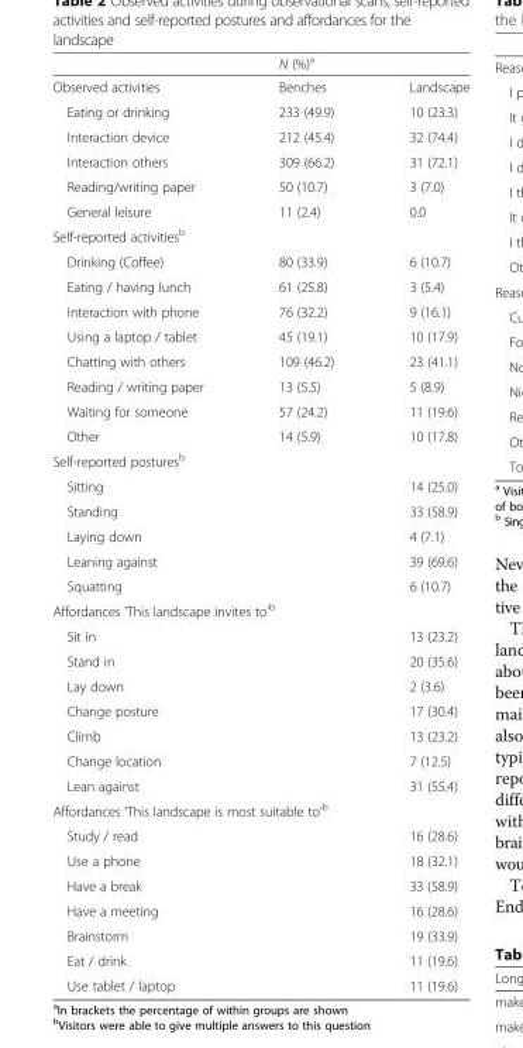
<table><thead><tr><td rowspan="2">Observed activities</td><td colspan="2">N (%)<sup>a</sup></td></tr><tr><td>Benches</td><td>Landscape</td></tr></thead><tbody><tr><td>Eating or drinking</td><td>233 (49.9)</td><td>10 (23.3)</td></tr><tr><td>Interaction device</td><td>212 (45.4)</td><td>32 (74.4)</td></tr><tr><td>Interaction others</td><td>309 (66.2)</td><td>31 (72.1)</td></tr><tr><td>Reading/writing paper</td><td>50 (10.7)</td><td>3 (7.0)</td></tr><tr><td>General leisure</td><td>11 (2.4)</td><td>0.0</td></tr><tr><td colspan="3">Self-reported activities<sup>b</sup></td></tr><tr><td>Drinking (Coffee)</td><td>80 (33.9)</td><td>6 (10.7)</td></tr><tr><td>Eating / having lunch</td><td>61 (25.8)</td><td>3 (5.4)</td></tr><tr><td>Interaction with phone</td><td>76 (32.2)</td><td>9 (16.1)</td></tr><tr><td>Using a laptop / tablet</td><td>45 (19.1)</td><td>10 (17.9)</td></tr><tr><td>Chatting with others</td><td>109 (46.2)</td><td>23 (41.1)</td></tr><tr><td>Reading / writing paper</td><td>13 (5.5)</td><td>5 (8.9)</td></tr><tr><td>Waiting for someone</td><td>57 (24.2)</td><td>11 (19.6)</td></tr><tr><td>Other</td><td>14 (5.9)</td><td>10 (17.8)</td></tr><tr><td colspan="3">Self-reported postures<sup>b</sup></td></tr><tr><td>Sitting</td><td></td><td>14 (25.0)</td></tr><tr><td>Standing</td><td></td><td>33 (58.9)</td></tr><tr><td>Laying down</td><td></td><td>4 (7.1)</td></tr><tr><td>Leaning against</td><td></td><td>39 (69.6)</td></tr><tr><td>Squatting</td><td></td><td>6 (10.7)</td></tr><tr><td colspan="3">Affordances ‘This landscape invites to’<sup>b</sup></td></tr><tr><td>Sit in</td><td></td><td>13 (23.2)</td></tr><tr><td>Stand in</td><td></td><td>20 (35.6)</td></tr><tr><td>Lay down</td><td></td><td>2 (3.6)</td></tr><tr><td>Change posture</td><td></td><td>17 (30.4)</td></tr><tr><td>Climb</td><td></td><td>13 (23.2)</td></tr><tr><td>Change location</td><td></td><td>7 (12.5)</td></tr><tr><td>Lean against</td><td></td><td>31 (55.4)</td></tr><tr><td colspan="3">Affordances ‘This landscape is most suitable to’<sup>b</sup></td></tr><tr><td>Study / read</td><td></td><td>16 (28.6)</td></tr><tr><td>Use a phone</td><td></td><td>18 (32.1)</td></tr><tr><td>Have a break</td><td></td><td>33 (58.9)</td></tr><tr><td>Have a meeting</td><td></td><td>16 (28.6)</td></tr><tr><td>Brainstorm</td><td></td><td>19 (33.9)</td></tr><tr><td>Eat / drink</td><td></td><td>11 (19.6)</td></tr><tr><td>Use tablet / laptop</td><td></td><td>11 (19.6)</td></tr></tbody></table>